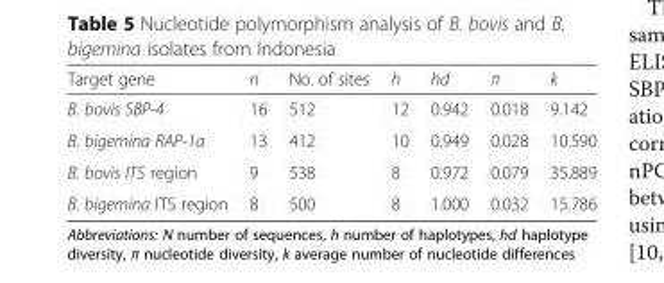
<table><thead><tr><td>Target gene</td><td>n</td><td>No. of sites</td><td>h</td><td>hd</td><td>π</td><td>k</td></tr></thead><tbody><tr><td>B. bovis SBP-4</td><td>16</td><td>512</td><td>12</td><td>0.942</td><td>0.018</td><td>9.142</td></tr><tr><td>B. bigemina RAP-1a</td><td>13</td><td>412</td><td>10</td><td>0.949</td><td>0.028</td><td>10.590</td></tr><tr><td>B. bovis ITS region</td><td>9</td><td>538</td><td>8</td><td>0.972</td><td>0.079</td><td>35.889</td></tr><tr><td>B. bigemina ITS region</td><td>8</td><td>500</td><td>8</td><td>1.000</td><td>0.032</td><td>15.786</td></tr></tbody></table>